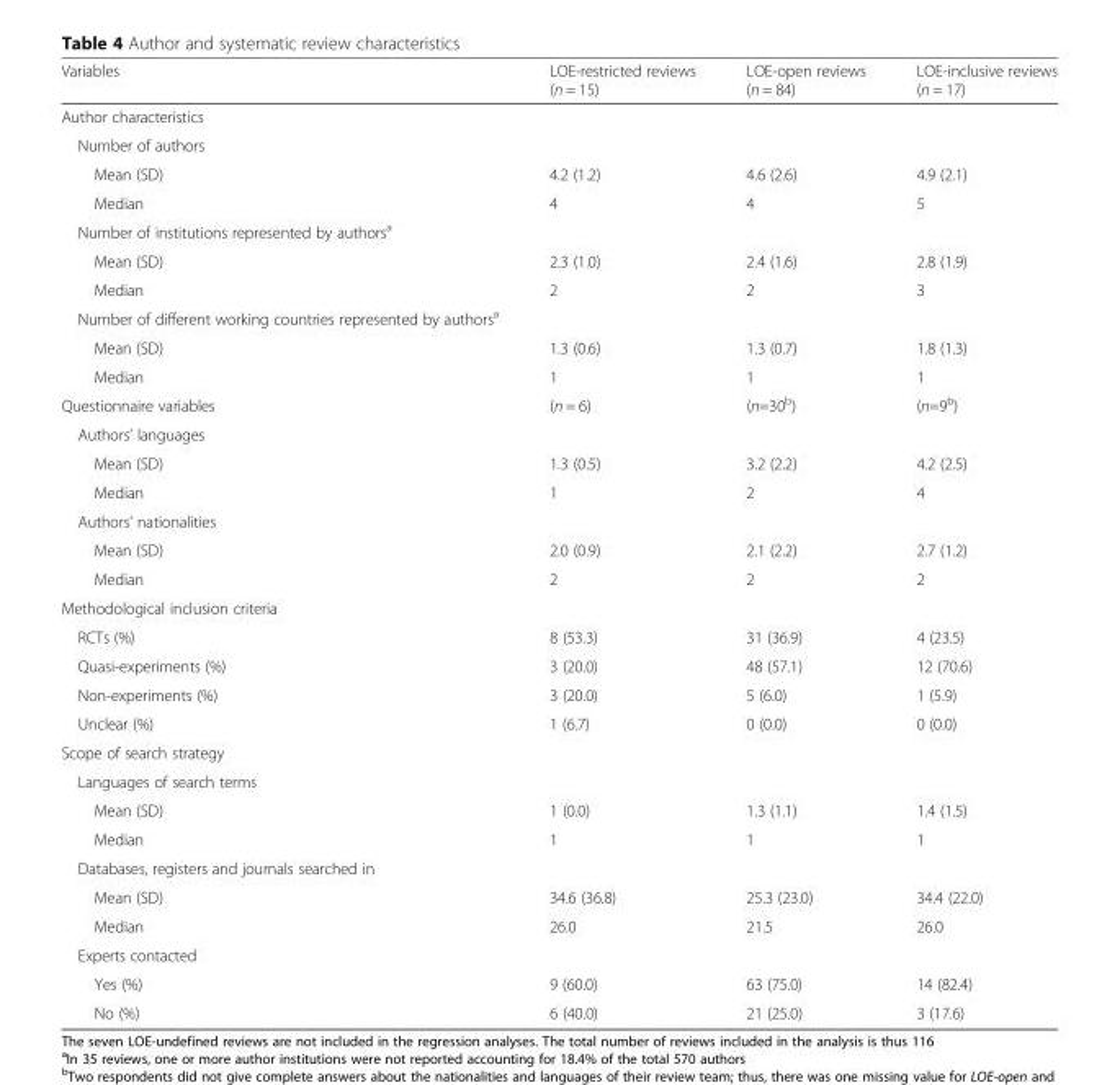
<table><thead><tr><td>Variables</td><td>LOE-restricted reviews (n = 15)</td><td>LOE-open reviews (n = 84)</td><td>LOE-inclusive reviews (n = 17)</td></tr></thead><tbody><tr><td colspan="4">Author characteristics</td></tr><tr><td colspan="4">Number of authors</td></tr><tr><td>Mean (SD)</td><td>4.2 (1.2)</td><td>4.6 (2.6)</td><td>4.9 (2.1)</td></tr><tr><td>Median</td><td>4</td><td>4</td><td>5</td></tr><tr><td colspan="4">Number of institutions represented by authors<sup>a</sup></td></tr><tr><td>Mean (SD)</td><td>2.3 (1.0)</td><td>2.4 (1.6)</td><td>2.8 (1.9)</td></tr><tr><td>Median</td><td>2</td><td>2</td><td>3</td></tr><tr><td colspan="4">Number of different working countries represented by authors<sup>a</sup></td></tr><tr><td>Mean (SD)</td><td>1.3 (0.6)</td><td>1.3 (0.7)</td><td>1.8 (1.3)</td></tr><tr><td>Median</td><td>1</td><td>1</td><td>1</td></tr><tr><td>Questionnaire variables</td><td>(n = 6)</td><td>(n=30<sup>b</sup>)</td><td>(n=9<sup>b</sup>)</td></tr><tr><td colspan="4">Authors’ languages</td></tr><tr><td>Mean (SD)</td><td>1.3 (0.5)</td><td>3.2 (2.2)</td><td>4.2 (2.5)</td></tr><tr><td>Median</td><td>1</td><td>2</td><td>4</td></tr><tr><td colspan="4">Authors’ nationalities</td></tr><tr><td>Mean (SD)</td><td>2.0 (0.9)</td><td>2.1 (2.2)</td><td>2.7 (1.2)</td></tr><tr><td>Median</td><td>2</td><td>2</td><td>2</td></tr><tr><td colspan="4">Methodological inclusion criteria</td></tr><tr><td>RCTs (%)</td><td>8 (53.3)</td><td>31 (36.9)</td><td>4 (23.5)</td></tr><tr><td>Quasi-experiments (%)</td><td>3 (20.0)</td><td>48 (57.1)</td><td>12 (70.6)</td></tr><tr><td>Non-experiments (%)</td><td>3 (20.0)</td><td>5 (6.0)</td><td>1 (5.9)</td></tr><tr><td>Unclear (%)</td><td>1 (6.7)</td><td>0 (0.0)</td><td>0 (0.0)</td></tr><tr><td colspan="4">Scope of search strategy</td></tr><tr><td colspan="4">Languages of search terms</td></tr><tr><td>Mean (SD)</td><td>1 (0.0)</td><td>1.3 (1.1)</td><td>1.4 (1.5)</td></tr><tr><td>Median</td><td>1</td><td>1</td><td>1</td></tr><tr><td colspan="4">Databases, registers and journals searched in</td></tr><tr><td>Mean (SD)</td><td>34.6 (36.8)</td><td>25.3 (23.0)</td><td>34.4 (22.0)</td></tr><tr><td>Median</td><td>26.0</td><td>21.5</td><td>26.0</td></tr><tr><td colspan="4">Experts contacted</td></tr><tr><td>Yes (%)</td><td>9 (60.0)</td><td>63 (75.0)</td><td>14 (82.4)</td></tr><tr><td>No (%)</td><td>6 (40.0)</td><td>21 (25.0)</td><td>3 (17.6)</td></tr></tbody></table>